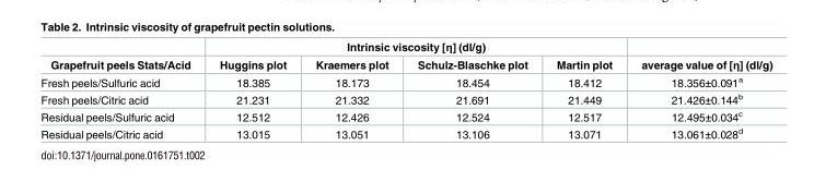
<table><thead><tr><td rowspan="2">Grapefruit peels Stats/Acid</td><td colspan="4">Intrinsic viscosity [η] (dl/g)</td><td rowspan="2">average value of [η] (dl/g)</td></tr><tr><td>Huggins plot</td><td>Kraemers plot</td><td>Schulz-Blaschke plot</td><td>Martin plot</td></tr></thead><tbody><tr><td>Fresh peels/Sulfuric acid</td><td>18.385</td><td>18.173</td><td>18.454</td><td>18.412</td><td>18.356±0.091<sup>a</sup></td></tr><tr><td>Fresh peels/Citric acid</td><td>21.231</td><td>21.332</td><td>21.691</td><td>21.449</td><td>21.426±0.144<sup>b</sup></td></tr><tr><td>Residual peels/Sulfuric acid</td><td>12.512</td><td>12.426</td><td>12.524</td><td>12.517</td><td>12.495±0.034<sup>c</sup></td></tr><tr><td>Residual peels/Citric acid</td><td>13.015</td><td>13.051</td><td>13.106</td><td>13.071</td><td>13.061±0.028<sup>d</sup></td></tr></tbody></table>